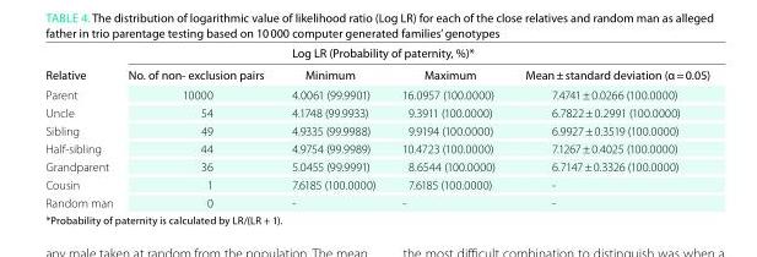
<table><thead><tr><td rowspan="2">relative</td><td rowspan="2">no. of non- exclusion pairs</td><td colspan="3">Log Lr (Probability of paternity, %)*</td></tr><tr><td>Minimum</td><td>Maximum</td><td>Mean ± standard deviation (α = 0.05)</td></tr></thead><tbody><tr><td>Parent</td><td>10000</td><td>4.0061 (99.9901)</td><td>16.0957 (100.0000)</td><td>7.4741 ± 0.0266 (100.0000)</td></tr><tr><td>Uncle</td><td>54</td><td>4.1748 (99.9933)</td><td>9.3911 (100.0000)</td><td>6.7822 ± 0.2991 (100.0000)</td></tr><tr><td>Sibling</td><td>49</td><td>4.9335 (99.9988)</td><td>9.9194 (100.0000)</td><td>6.9927 ± 0.3519 (100.0000)</td></tr><tr><td>Half-sibling</td><td>44</td><td>4.9754 (99.9989)</td><td>10.4723 (100.0000)</td><td>7.1267 ± 0.4025 (100.0000)</td></tr><tr><td>Grandparent</td><td>36</td><td>5.0455 (99.9991)</td><td>8.6544 (100.0000)</td><td>6.7147 ± 0.3326 (100.0000)</td></tr><tr><td>Cousin</td><td>1</td><td>7.6185 (100.0000)</td><td>7.6185 (100.0000)</td><td>-</td></tr><tr><td>Random man</td><td>0</td><td>-</td><td>-</td><td>-</td></tr></tbody></table>